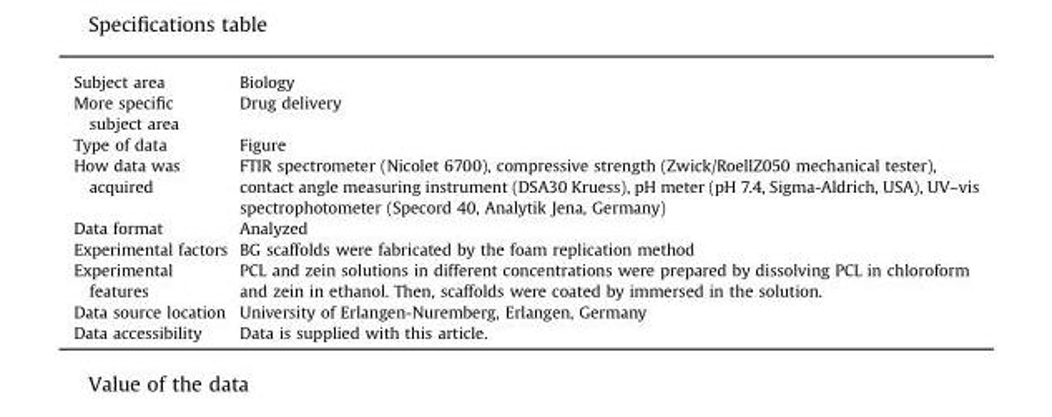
<table><tbody><tr><td>Subject area</td><td>Biology</td></tr><tr><td>More specific subject area</td><td>Drug delivery</td></tr><tr><td>Type of data</td><td>Figure</td></tr><tr><td>How data was acquired</td><td>FTIR spectrometer (Nicolet 6700), compressive strength (Zwick/RoellZ050 mechanical tester), contact angle measuring instrument (DSA30 Kruess), pH meter (pH 7.4, Sigma-Aldrich, USA), UV–vis spectrophotometer (Specord 40, Analytik Jena, Germany)</td></tr><tr><td>Data format</td><td>Analyzed</td></tr><tr><td>Experimental factors</td><td>BG scaffolds were fabricated by the foam replication method</td></tr><tr><td>Experimental features</td><td>PCL and zein solutions in different concentrations were prepared by dissolving PCL in chloroform and zein in ethanol. Then, scaffolds were coated by immersed in the solution.</td></tr><tr><td>Data source location</td><td>University of Erlangen-Nuremberg, Erlangen, Germany</td></tr><tr><td>Data accessibility</td><td>Data is supplied with this article.</td></tr></tbody></table>